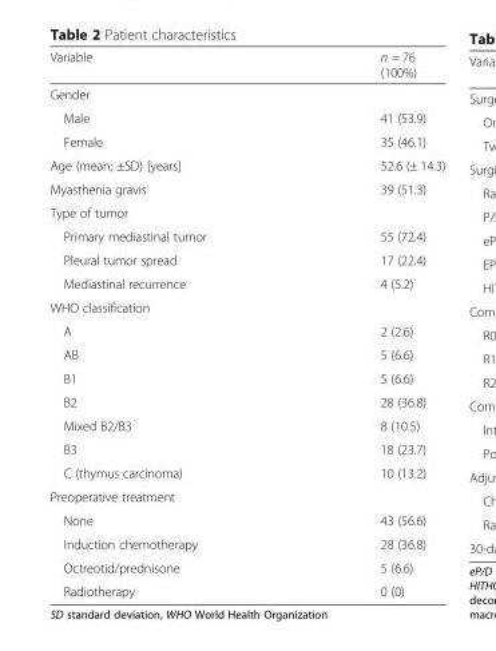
<table><thead><tr><td>Variable</td><td>n = 76 (100%)</td></tr></thead><tbody><tr><td colspan="2">Gender</td></tr><tr><td>Male</td><td>41 (53.9)</td></tr><tr><td>Female</td><td>35 (46.1)</td></tr><tr><td>Age (mean; ±SD) [years]</td><td>52.6 (± 14.3)</td></tr><tr><td>Myasthenia gravis</td><td>39 (51.3)</td></tr><tr><td colspan="2">Type of tumor</td></tr><tr><td>Primary mediastinal tumor</td><td>55 (72.4)</td></tr><tr><td>Pleural tumor spread</td><td>17 (22.4)</td></tr><tr><td>Mediastinal recurrence</td><td>4 (5.2)</td></tr><tr><td colspan="2">WHO classification</td></tr><tr><td>A</td><td>2 (2.6)</td></tr><tr><td>AB</td><td>5 (6.6)</td></tr><tr><td>B1</td><td>5 (6.6)</td></tr><tr><td>B2</td><td>28 (36.8)</td></tr><tr><td>Mixed B2/B3</td><td>8 (10.5)</td></tr><tr><td>B3</td><td>18 (23.7)</td></tr><tr><td>C (thymus carcinoma)</td><td>10 (13.2)</td></tr><tr><td colspan="2">Preoperative treatment</td></tr><tr><td>None</td><td>43 (56.6)</td></tr><tr><td>Induction chemotherapy</td><td>28 (36.8)</td></tr><tr><td>Octreotid/prednisone</td><td>5 (6.6)</td></tr><tr><td>Radiotherapy</td><td>0 (0)</td></tr></tbody></table>